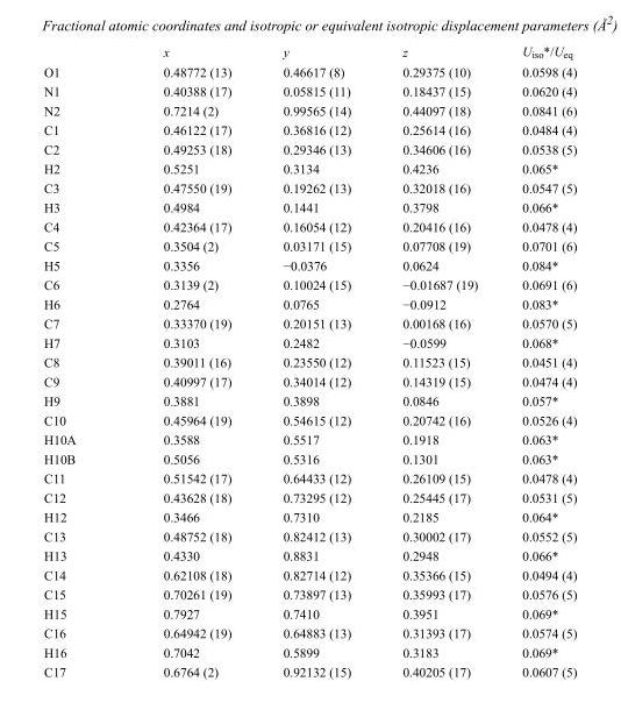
<table><thead><tr><td></td><td>x</td><td>y</td><td>z</td><td>U<sub>iso</sub>*/U<sub>eq</sub></td></tr></thead><tbody><tr><td>O1</td><td>0.48772 (13)</td><td>0.46617 (8)</td><td>0.29375 (10)</td><td>0.0598 (4)</td></tr><tr><td>N1</td><td>0.40388 (17)</td><td>0.05815 (11)</td><td>0.18437 (15)</td><td>0.0620 (4)</td></tr><tr><td>N2</td><td>0.7214 (2)</td><td>0.99565 (14)</td><td>0.44097 (18)</td><td>0.0841 (6)</td></tr><tr><td>C1</td><td>0.46122 (17)</td><td>0.36816 (12)</td><td>0.25614 (16)</td><td>0.0484 (4)</td></tr><tr><td>C2</td><td>0.49253 (18)</td><td>0.29346 (13)</td><td>0.34606 (16)</td><td>0.0538 (5)</td></tr><tr><td>H2</td><td>0.5251</td><td>0.3134</td><td>0.4236</td><td>0.065*</td></tr><tr><td>C3</td><td>0.47550 (19)</td><td>0.19262 (13)</td><td>0.32018 (16)</td><td>0.0547 (5)</td></tr><tr><td>H3</td><td>0.4984</td><td>0.1441</td><td>0.3798</td><td>0.066*</td></tr><tr><td>C4</td><td>0.42364 (17)</td><td>0.16054 (12)</td><td>0.20416 (16)</td><td>0.0478 (4)</td></tr><tr><td>C5</td><td>0.3504 (2)</td><td>0.03171 (15)</td><td>0.07708 (19)</td><td>0.0701 (6)</td></tr><tr><td>H5</td><td>0.3356</td><td>−0.0376</td><td>0.0624</td><td>0.084*</td></tr><tr><td>C6</td><td>0.3139 (2)</td><td>0.10024 (15)</td><td>−0.01687 (19)</td><td>0.0691 (6)</td></tr><tr><td>H6</td><td>0.2764</td><td>0.0765</td><td>−0.0912</td><td>0.083*</td></tr><tr><td>C7</td><td>0.33370 (19)</td><td>0.20151 (13)</td><td>0.00168 (16)</td><td>0.0570 (5)</td></tr><tr><td>H7</td><td>0.3103</td><td>0.2482</td><td>−0.0599</td><td>0.068*</td></tr><tr><td>C8</td><td>0.39011 (16)</td><td>0.23550 (12)</td><td>0.11523 (15)</td><td>0.0451 (4)</td></tr><tr><td>C9</td><td>0.40997 (17)</td><td>0.34014 (12)</td><td>0.14319 (15)</td><td>0.0474 (4)</td></tr><tr><td>H9</td><td>0.3881</td><td>0.3898</td><td>0.0846</td><td>0.057*</td></tr><tr><td>C10</td><td>0.45964 (19)</td><td>0.54615 (12)</td><td>0.20742 (16)</td><td>0.0526 (4)</td></tr><tr><td>H10A</td><td>0.3588</td><td>0.5517</td><td>0.1918</td><td>0.063*</td></tr><tr><td>H10B</td><td>0.5056</td><td>0.5316</td><td>0.1301</td><td>0.063*</td></tr><tr><td>C11</td><td>0.51542 (17)</td><td>0.64433 (12)</td><td>0.26109 (15)</td><td>0.0478 (4)</td></tr><tr><td>C12</td><td>0.43628 (18)</td><td>0.73295 (12)</td><td>0.25445 (17)</td><td>0.0531 (5)</td></tr><tr><td>H12</td><td>0.3466</td><td>0.7310</td><td>0.2185</td><td>0.064*</td></tr><tr><td>C13</td><td>0.48752 (18)</td><td>0.82412 (13)</td><td>0.30002 (17)</td><td>0.0552 (5)</td></tr><tr><td>H13</td><td>0.4330</td><td>0.8831</td><td>0.2948</td><td>0.066*</td></tr><tr><td>C14</td><td>0.62108 (18)</td><td>0.82714 (12)</td><td>0.35366 (15)</td><td>0.0494 (4)</td></tr><tr><td>C15</td><td>0.70261 (19)</td><td>0.73897 (13)</td><td>0.35993 (17)</td><td>0.0576 (5)</td></tr><tr><td>H15</td><td>0.7927</td><td>0.7410</td><td>0.3951</td><td>0.069*</td></tr><tr><td>C16</td><td>0.64942 (19)</td><td>0.64883 (13)</td><td>0.31393 (17)</td><td>0.0574 (5)</td></tr><tr><td>H16</td><td>0.7042</td><td>0.5899</td><td>0.3183</td><td>0.069*</td></tr><tr><td>C17</td><td>0.6764 (2)</td><td>0.92132 (15)</td><td>0.40205 (17)</td><td>0.0607 (5)</td></tr></tbody></table>